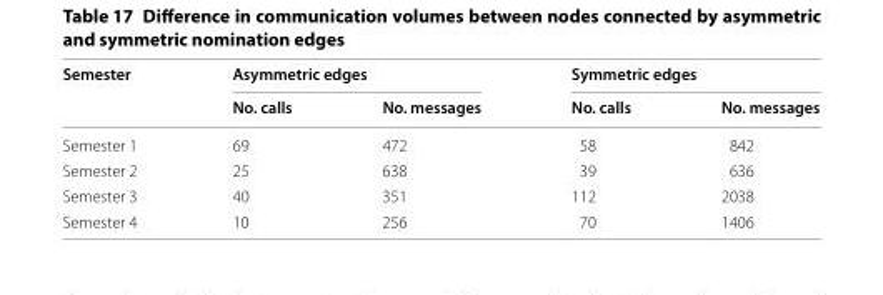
<table><thead><tr><td rowspan="2">Semester</td><td colspan="2">Asymmetric edges</td><td colspan="2">Symmetric edges</td></tr><tr><td>No. calls</td><td>No. messages</td><td>No. calls</td><td>No. messages</td></tr></thead><tbody><tr><td>Semester 1</td><td>69</td><td>472</td><td>58</td><td>842</td></tr><tr><td>Semester 2</td><td>25</td><td>638</td><td>39</td><td>636</td></tr><tr><td>Semester 3</td><td>40</td><td>351</td><td>112</td><td>2038</td></tr><tr><td>Semester 4</td><td>10</td><td>256</td><td>70</td><td>1406</td></tr></tbody></table>